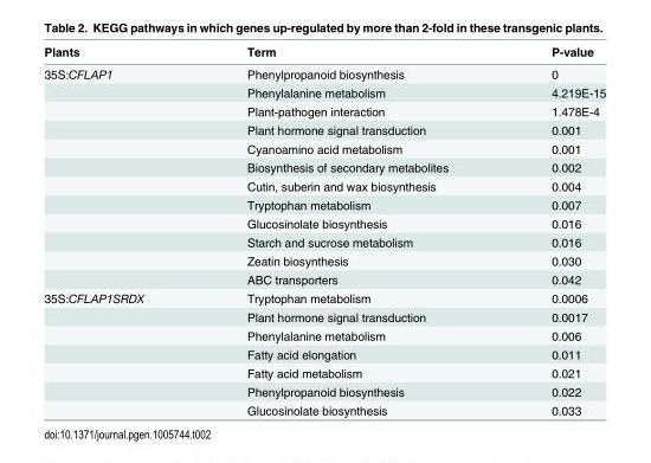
<table><thead><tr><td>Plants</td><td>Term</td><td>P-value</td></tr></thead><tbody><tr><td rowspan="12">35S:CFLAP1</td><td>Phenylpropanoid biosynthesis</td><td>0</td></tr><tr><td>Phenylalanine metabolism</td><td>4.219E-15</td></tr><tr><td>Plant-pathogen interaction</td><td>1.478E-4</td></tr><tr><td>Plant hormone signal transduction</td><td>0.001</td></tr><tr><td>Cyanoamino acid metabolism</td><td>0.001</td></tr><tr><td>Biosynthesis of secondary metabolites</td><td>0.002</td></tr><tr><td>Cutin, suberin and wax biosynthesis</td><td>0.004</td></tr><tr><td>Tryptophan metabolism</td><td>0.007</td></tr><tr><td>Glucosinolate biosynthesis</td><td>0.016</td></tr><tr><td>Starch and sucrose metabolism</td><td>0.016</td></tr><tr><td>Zeatin biosynthesis</td><td>0.030</td></tr><tr><td>ABC transporters</td><td>0.042</td></tr><tr><td rowspan="7">35S:CFLAP1SRDX</td><td>Tryptophan metabolism</td><td>0.0006</td></tr><tr><td>Plant hormone signal transduction</td><td>0.0017</td></tr><tr><td>Phenylalanine metabolism</td><td>0.006</td></tr><tr><td>Fatty acid elongation</td><td>0.011</td></tr><tr><td>Fatty acid metabolism</td><td>0.021</td></tr><tr><td>Phenylpropanoid biosynthesis</td><td>0.022</td></tr><tr><td>Glucosinolate biosynthesis</td><td>0.033</td></tr></tbody></table>